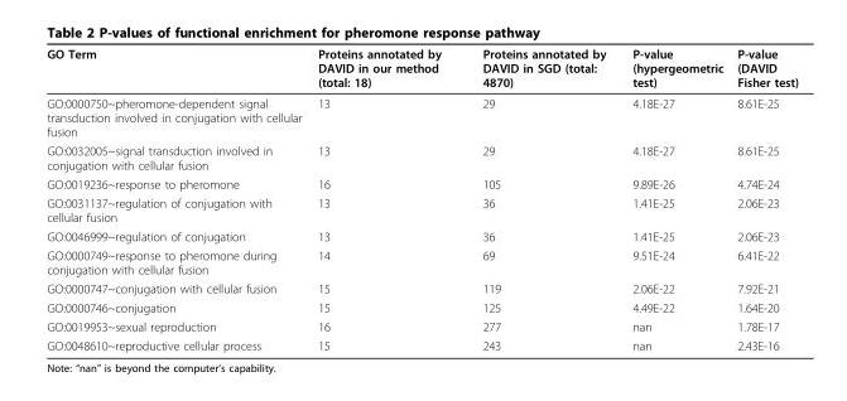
<table><thead><tr><td>GO Term</td><td>Proteins annotated by DAVID in our method (total: 18)</td><td>Proteins annotated by DAVID in SGD (total: 4870)</td><td>P-value (hypergeometric test)</td><td>P-value (DAVID Fisher test)</td></tr></thead><tbody><tr><td>GO:0000750~pheromone-dependent signal transduction involved in conjugation with cellular fusion</td><td>13</td><td>29</td><td>4.18E-27</td><td>8.61E-25</td></tr><tr><td>GO:0032005~signal transduction involved in conjugation with cellular fusion</td><td>13</td><td>29</td><td>4.18E-27</td><td>8.61E-25</td></tr><tr><td>GO:0019236~response to pheromone</td><td>16</td><td>105</td><td>9.89E-26</td><td>4.74E-24</td></tr><tr><td>GO:0031137~regulation of conjugation with cellular fusion</td><td>13</td><td>36</td><td>1.41E-25</td><td>2.06E-23</td></tr><tr><td>GO:0046999~regulation of conjugation</td><td>13</td><td>36</td><td>1.41E-25</td><td>2.06E-23</td></tr><tr><td>GO:0000749~response to pheromone during conjugation with cellular fusion</td><td>14</td><td>69</td><td>9.51E-24</td><td>6.41E-22</td></tr><tr><td>GO:0000747~conjugation with cellular fusion</td><td>15</td><td>119</td><td>2.06E-22</td><td>7.92E-21</td></tr><tr><td>GO:0000746~conjugation</td><td>15</td><td>125</td><td>4.49E-22</td><td>1.64E-20</td></tr><tr><td>GO:0019953~sexual reproduction</td><td>16</td><td>277</td><td>nan</td><td>1.78E-17</td></tr><tr><td>GO:0048610~reproductive cellular process</td><td>15</td><td>243</td><td>nan</td><td>2.43E-16</td></tr></tbody></table>